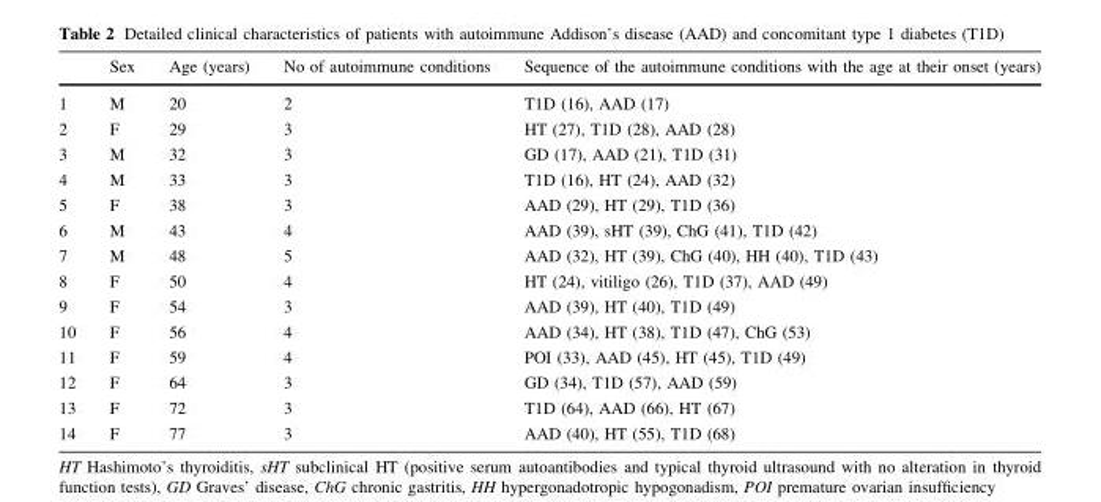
<table><thead><tr><td></td><td>Sex</td><td>Age (years)</td><td>No of autoimmune conditions</td><td>Sequence of the autoimmune conditions with the age at their onset (years)</td></tr></thead><tbody><tr><td>1</td><td>M</td><td>20</td><td>2</td><td>T1D (16), AAD (17)</td></tr><tr><td>2</td><td>F</td><td>29</td><td>3</td><td>HT (27), T1D (28), AAD (28)</td></tr><tr><td>3</td><td>M</td><td>32</td><td>3</td><td>GD (17), AAD (21), T1D (31)</td></tr><tr><td>4</td><td>M</td><td>33</td><td>3</td><td>T1D (16), HT (24), AAD (32)</td></tr><tr><td>5</td><td>F</td><td>38</td><td>3</td><td>AAD (29), HT (29), T1D (36)</td></tr><tr><td>6</td><td>M</td><td>43</td><td>4</td><td>AAD (39), sHT (39), ChG (41), T1D (42)</td></tr><tr><td>7</td><td>M</td><td>48</td><td>5</td><td>AAD (32), HT (39), ChG (40), HH (40), T1D (43)</td></tr><tr><td>8</td><td>F</td><td>50</td><td>4</td><td>HT (24), vitiligo (26), T1D (37), AAD (49)</td></tr><tr><td>9</td><td>F</td><td>54</td><td>3</td><td>AAD (39), HT (40), T1D (49)</td></tr><tr><td>10</td><td>F</td><td>56</td><td>4</td><td>AAD (34), HT (38), T1D (47), ChG (53)</td></tr><tr><td>11</td><td>F</td><td>59</td><td>4</td><td>POI (33), AAD (45), HT (45), T1D (49)</td></tr><tr><td>12</td><td>F</td><td>64</td><td>3</td><td>GD (34), T1D (57), AAD (59)</td></tr><tr><td>13</td><td>F</td><td>72</td><td>3</td><td>T1D (64), AAD (66), HT (67)</td></tr><tr><td>14</td><td>F</td><td>77</td><td>3</td><td>AAD (40), HT (55), T1D (68)</td></tr></tbody></table>